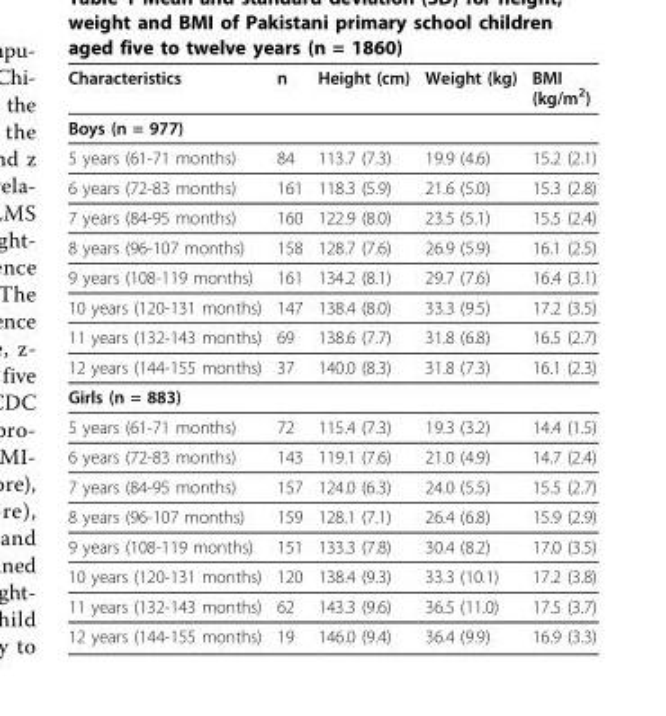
<table><thead><tr><td>Characteristics</td><td>n</td><td>Height (cm)</td><td>Weight (kg)</td><td>BMI (kg/m<sup>2</sup>)</td></tr></thead><tbody><tr><td colspan="5">Boys (n = 977)</td></tr><tr><td>5 years (61-71 months)</td><td>84</td><td>113.7 (7.3)</td><td>19.9 (4.6)</td><td>15.2 (2.1)</td></tr><tr><td>6 years (72-83 months)</td><td>161</td><td>118.3 (5.9)</td><td>21.6 (5.0)</td><td>15.3 (2.8)</td></tr><tr><td>7 years (84-95 months)</td><td>160</td><td>122.9 (8.0)</td><td>23.5 (5.1)</td><td>15.5 (2.4)</td></tr><tr><td>8 years (96-107 months)</td><td>158</td><td>128.7 (7.6)</td><td>26.9 (5.9)</td><td>16.1 (2.5)</td></tr><tr><td>9 years (108-119 months)</td><td>161</td><td>134.2 (8.1)</td><td>29.7 (7.6)</td><td>16.4 (3.1)</td></tr><tr><td>10 years (120-131 months)</td><td>147</td><td>138.4 (8.0)</td><td>33.3 (9.5)</td><td>17.2 (3.5)</td></tr><tr><td>11 years (132-143 months)</td><td>69</td><td>138.6 (7.7)</td><td>31.8 (6.8)</td><td>16.5 (2.7)</td></tr><tr><td>12 years (144-155 months)</td><td>37</td><td>140.0 (8.3)</td><td>31.8 (7.3)</td><td>16.1 (2.3)</td></tr><tr><td colspan="5">Girls (n = 883)</td></tr><tr><td>5 years (61-71 months)</td><td>72</td><td>115.4 (7.3)</td><td>19.3 (3.2)</td><td>14.4 (1.5)</td></tr><tr><td>6 years (72-83 months)</td><td>143</td><td>119.1 (7.6)</td><td>21.0 (4.9)</td><td>14.7 (2.4)</td></tr><tr><td>7 years (84-95 months)</td><td>157</td><td>124.0 (6.3)</td><td>24.0 (5.5)</td><td>15.5 (2.7)</td></tr><tr><td>8 years (96-107 months)</td><td>159</td><td>128.1 (7.1)</td><td>26.4 (6.8)</td><td>15.9 (2.9)</td></tr><tr><td>9 years (108-119 months)</td><td>151</td><td>133.3 (7.8)</td><td>30.4 (8.2)</td><td>17.0 (3.5)</td></tr><tr><td>10 years (120-131 months)</td><td>120</td><td>138.4 (9.3)</td><td>33.3 (10.1)</td><td>17.2 (3.8)</td></tr><tr><td>11 years (132-143 months)</td><td>62</td><td>143.3 (9.6)</td><td>36.5 (11.0)</td><td>17.5 (3.7)</td></tr><tr><td>12 years (144-155 months)</td><td>19</td><td>146.0 (9.4)</td><td>36.4 (9.9)</td><td>16.9 (3.3)</td></tr></tbody></table>